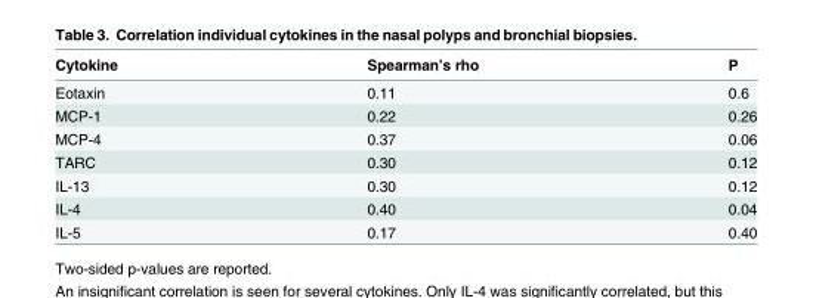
<table><thead><tr><td>Cytokine</td><td>Spearman’s rho</td><td>P</td></tr></thead><tbody><tr><td>Eotaxin</td><td>0.11</td><td>0.6</td></tr><tr><td>MCP-1</td><td>0.22</td><td>0.26</td></tr><tr><td>MCP-4</td><td>0.37</td><td>0.06</td></tr><tr><td>TARC</td><td>0.30</td><td>0.12</td></tr><tr><td>IL-13</td><td>0.30</td><td>0.12</td></tr><tr><td>IL-4</td><td>0.40</td><td>0.04</td></tr><tr><td>IL-5</td><td>0.17</td><td>0.40</td></tr></tbody></table>